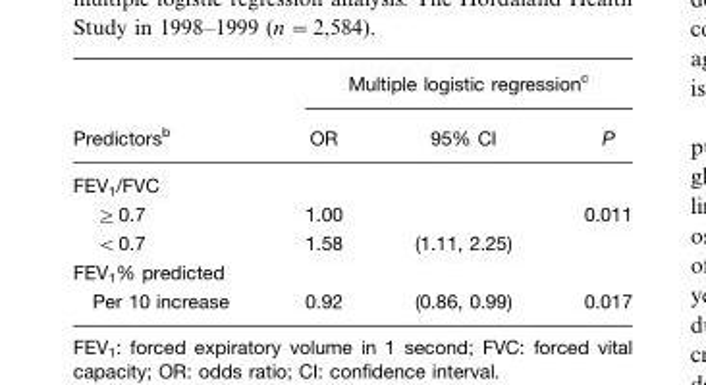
<table><thead><tr><td rowspan="2">Predictors<sup>b</sup></td><td colspan="3">Multiple logistic regression<sup>c</sup></td></tr><tr><td>OR</td><td>95% CI</td><td>P</td></tr></thead><tbody><tr><td colspan="4">FEV<sub>1</sub>/FVC</td></tr><tr><td>≥0.7</td><td>1.00</td><td></td><td>0.011</td></tr><tr><td>&lt;0.7</td><td>1.58</td><td>(1.11, 2.25)</td><td></td></tr><tr><td colspan="4">FEV<sub>1</sub>% predicted</td></tr><tr><td>Per 10 increase</td><td>0.92</td><td>(0.86, 0.99)</td><td>0.017</td></tr></tbody></table>